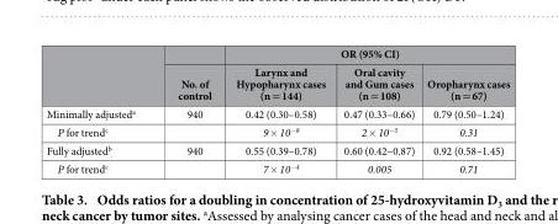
<table><thead><tr><td rowspan="2"></td><td rowspan="2">No. of control</td><td colspan="3">OR (95% CI)</td></tr><tr><td>Larynx and Hypopharynx cases (n = 144)</td><td>Oral cavity and Gum cases (n = 108)</td><td>Oropharynx cases (n = 67)</td></tr></thead><tbody><tr><td>Minimally adjusted<sup>a</sup></td><td>940</td><td>0.42 (0.30–0.58)</td><td>0.47 (0.33–0.66)</td><td>0.79 (0.50–1.24)</td></tr><tr><td>P for trend<sup>c</sup></td><td></td><td>9 × 10<sup>−8</sup></td><td>2 × 10<sup>−5</sup></td><td>0.31</td></tr><tr><td>Fully adjusted<sup>b</sup></td><td>940</td><td>0.55 (0.39–0.78)</td><td>0.60 (0.42–0.87)</td><td>0.92 (0.58–1.45)</td></tr><tr><td>P for trend<sup>c</sup></td><td></td><td>7 × 10<sup>−4</sup></td><td>0.005</td><td>0.71</td></tr></tbody></table>